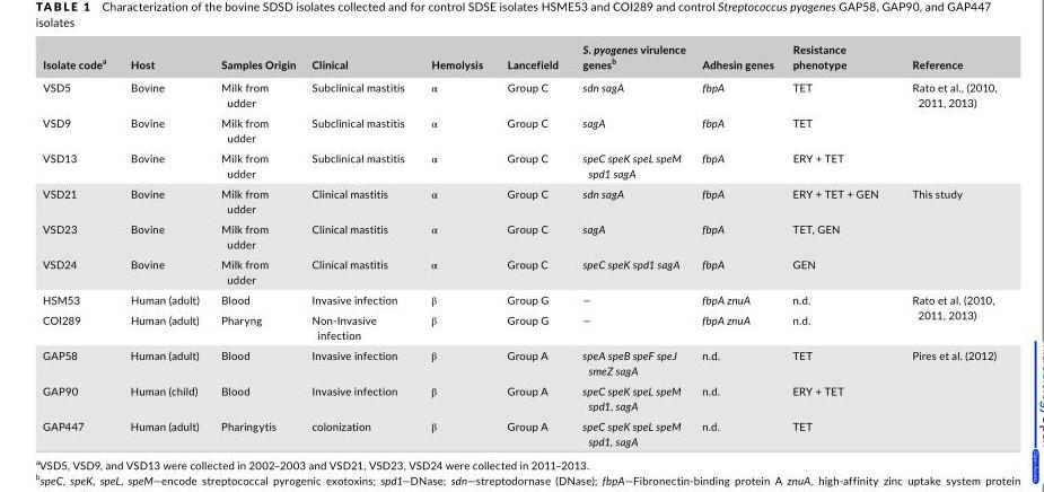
<table><thead><tr><td>Isolate code<sup>a</sup></td><td>Host</td><td>Samples Origin</td><td>Clinical</td><td>Hemolysis</td><td>Lancefield</td><td>S. pyogenes virulence genes<sup>b</sup></td><td>Adhesin genes</td><td>Resistance phenotype</td><td>Reference</td></tr></thead><tbody><tr><td>VSD5</td><td>Bovine</td><td>Milk from udder</td><td>Subclinical mastitis</td><td>α</td><td>Group C</td><td>sdn sagA</td><td>fbpA</td><td>TET</td><td rowspan="3">Rato et al., (2010, 2011, 2013)</td></tr><tr><td>VSD9</td><td>Bovine</td><td>Milk from udder</td><td>Subclinical mastitis</td><td>α</td><td>Group C</td><td>sagA</td><td>fbpA</td><td>TET</td></tr><tr><td>VSD13</td><td>Bovine</td><td>Milk from udder</td><td>Subclinical mastitis</td><td>α</td><td>Group C</td><td>speC speK speL speM spd1 sagA</td><td>fbpA</td><td>ERY + TET</td></tr><tr><td>VSD21</td><td>Bovine</td><td>Milk from udder</td><td>Clinical mastitis</td><td>α</td><td>Group C</td><td>sdn sagA</td><td>fbpA</td><td>ERY + TET + GEN</td><td rowspan="3">This study</td></tr><tr><td>VSD23</td><td>Bovine</td><td>Milk from udder</td><td>Clinical mastitis</td><td>α</td><td>Group C</td><td>sagA</td><td>fbpA</td><td>TET, GEN</td></tr><tr><td>VSD24</td><td>Bovine</td><td>Milk from udder</td><td>Clinical mastitis</td><td>α</td><td>Group C</td><td>speC speK spd1 sagA</td><td>fbpA</td><td>GEN</td></tr><tr><td>HSM53</td><td>Human (adult)</td><td>Blood</td><td>Invasive infection</td><td>β</td><td>Group G</td><td>—</td><td>fbpA znuA</td><td>n.d.</td><td rowspan="2">Rato et al. (2010, 2011, 2013)</td></tr><tr><td>COI289</td><td>Human (adult)</td><td>Pharyng</td><td>Non- Invasive infection</td><td>β</td><td>Group G</td><td>—</td><td>fbpA znuA</td><td>n.d.</td></tr><tr><td>GAP58</td><td>Human (adult)</td><td>Blood</td><td>Invasive infection</td><td>β</td><td>Group A</td><td>speA speB speF speJ smeZ sagA</td><td>n.d.</td><td>TET</td><td rowspan="3">Pires et al. (2012)</td></tr><tr><td>GAP90</td><td>Human (child)</td><td>Blood</td><td>Invasive infection</td><td>β</td><td>Group A</td><td>speC speK speL speM spd1, sagA</td><td>n.d.</td><td>ERY + TET</td></tr><tr><td>GAP447</td><td>Human (adult)</td><td>Pharingytis</td><td>colonization</td><td>β</td><td>Group A</td><td>speC speK speL speM spd1, sagA</td><td>n.d.</td><td>TET</td></tr></tbody></table>